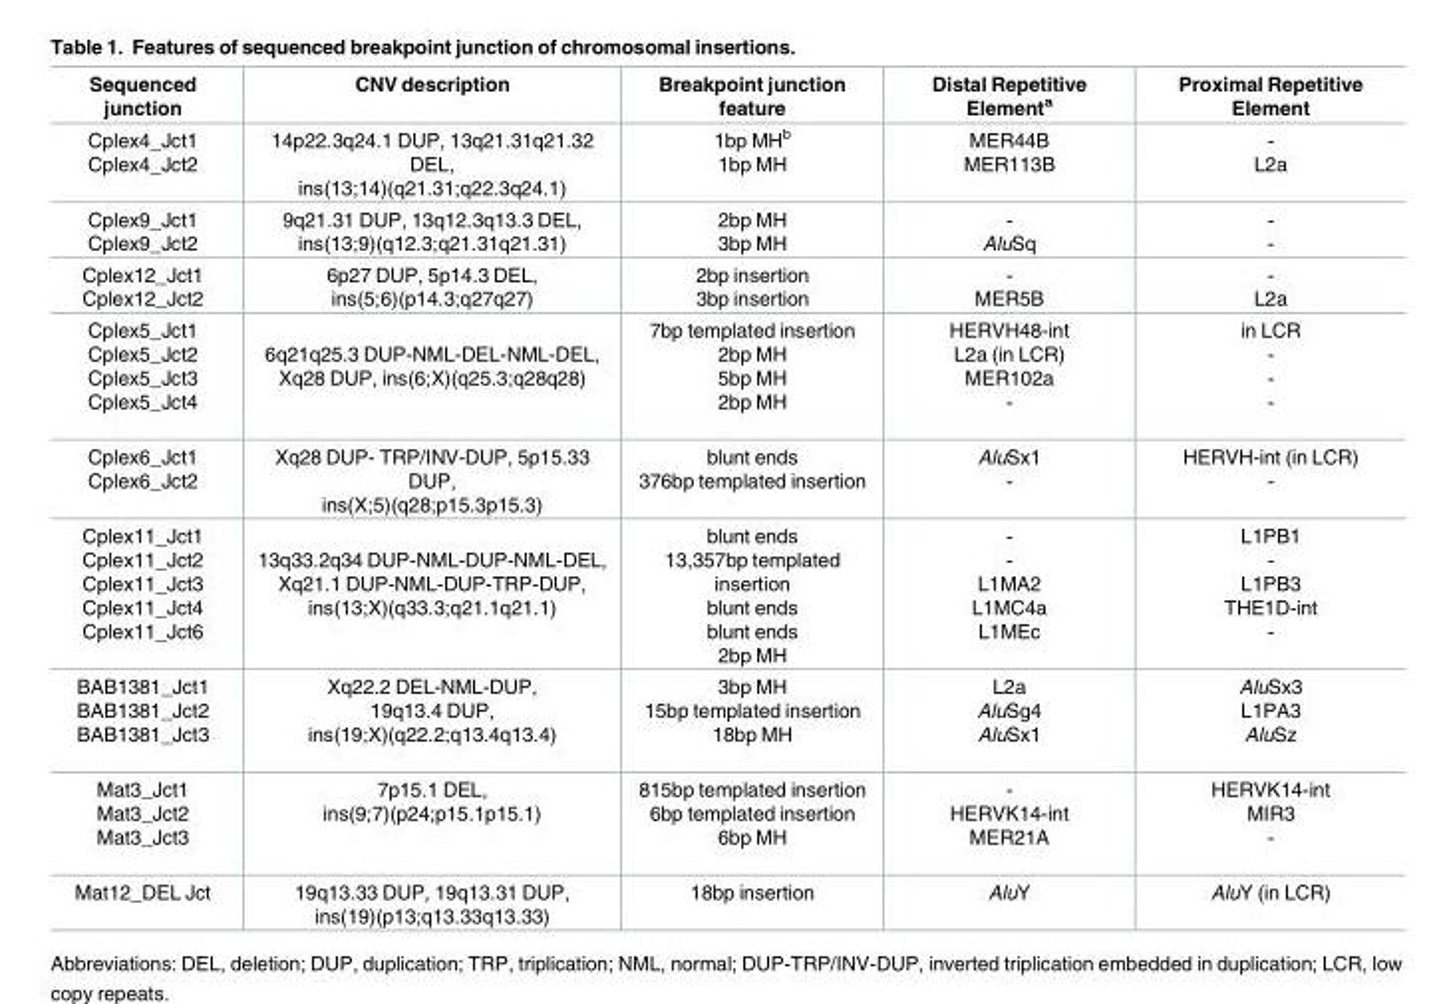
<table><thead><tr><td>Sequenced junction</td><td>CNV description</td><td>Breakpoint junction feature</td><td>Distal Repetitive Element<sup>a</sup></td><td>Proximal Repetitive Element</td></tr></thead><tbody><tr><td>Cplex4_Jct1 Cplex4_Jct2</td><td>14p22.3q24.1 DUP, 13q21.31q21.32 DEL, ins(13;14)(q21.31;q22.3q24.1)</td><td>1bp MH<sup>b</sup> 1bp MH</td><td>MER44B MER113B</td><td>- L2a</td></tr><tr><td>Cplex9_Jct1 Cplex9_Jct2</td><td>9q21.31 DUP, 13q12.3q13.3 DEL, ins(13;9)(q12.3;q21.31q21.31)</td><td>2bp MH 3bp MH</td><td>- AluSq</td><td>- -</td></tr><tr><td>Cplex12_Jct1 Cplex12_Jct2</td><td>6p27 DUP, 5p14.3 DEL, ins(5;6)(p14.3;q27q27)</td><td>2bp insertion 3bp insertion</td><td>- MER5B</td><td>- L2a</td></tr><tr><td>Cplex5_Jct1 Cplex5_Jct2 Cplex5_Jct3 Cplex5_Jct4</td><td>6q21q25.3 DUP-NML-DEL-NML-DEL, Xq28 DUP, ins(6;X)(q25.3;q28q28)</td><td>7bp templated insertion 2bp MH 5bp MH 2bp MH</td><td>HERVH48-int L2a (in LCR) MER102a -</td><td>in LCR - - -</td></tr><tr><td>Cplex6_Jct1 Cplex6_Jct2</td><td>Xq28 DUP- TRP/INV-DUP, 5p15.33 DUP, ins(X;5)(q28;p15.3p15.3)</td><td>blunt ends 376bp templated insertion</td><td>AluSx1 -</td><td>HERVH-int (in LCR) -</td></tr><tr><td>Cplex11_Jct1 Cplex11_Jct2 Cplex11_Jct3 Cplex11_Jct4 Cplex11_Jct6</td><td>13q33.2q34 DUP-NML-DUP-NML-DEL, Xq21.1 DUP-NML-DUP-TRP-DUP, ins(13;X)(q33.3;q21.1q21.1)</td><td>blunt ends 13,357bp templated insertion blunt ends blunt ends 2bp MH</td><td>- - L1MA2 L1MC4a L1MEc</td><td>L1PB1 - L1PB3 THE1D-int -</td></tr><tr><td>BAB1381_Jct1 BAB1381_Jct2 BAB1381_Jct3</td><td>Xq22.2 DEL-NML-DUP, 19q13.4 DUP, ins(19;X)(q22.2;q13.4q13.4)</td><td>3bp MH 15bp templated insertion 18bp MH</td><td>L2a AluSg4 AluSx1</td><td>AluSx3 L1PA3 AluSz</td></tr><tr><td>Mat3_Jct1 Mat3_Jct2 Mat3_Jct3</td><td>7p15.1 DEL, ins(9;7)(p24;p15.1p15.1)</td><td>815bp templated insertion 6bp templated insertion 6bp MH</td><td>- HERVK14-int MER21A</td><td>HERVK14-int MIR3 -</td></tr><tr><td>Mat12_DEL Jct</td><td>19q13.33 DUP, 19q13.31 DUP, ins(19)(p13;q13.33q13.33)</td><td>18bp insertion</td><td>AluY</td><td>AluY (in LCR)</td></tr></tbody></table>